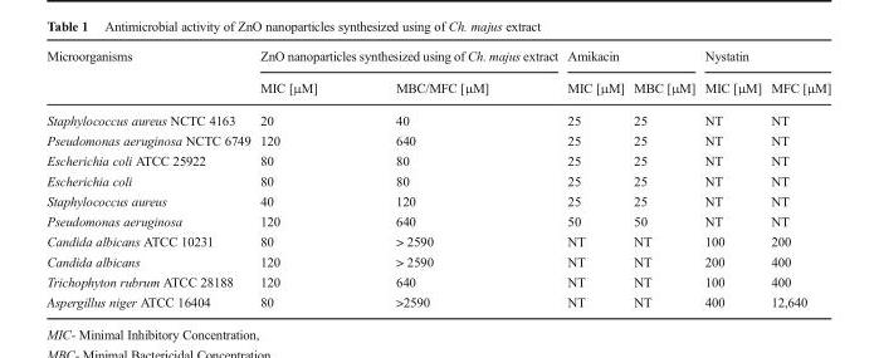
<table><thead><tr><td rowspan="2">Microorganisms</td><td colspan="2">ZnO nanoparticles synthesized using of Ch. majus extract</td><td colspan="2">Amikacin</td><td colspan="2">Nystatin</td></tr><tr><td>MIC [μM]</td><td>MBC/MFC [μM]</td><td>MIC [μM]</td><td>MBC [μM]</td><td>MIC [μM]</td><td>MFC [μM]</td></tr></thead><tbody><tr><td>Staphylococcus aureus NCTC 4163</td><td>20</td><td>40</td><td>25</td><td>25</td><td>NT</td><td>NT</td></tr><tr><td>Pseudomonas aeruginosa NCTC 6749</td><td>120</td><td>640</td><td>25</td><td>25</td><td>NT</td><td>NT</td></tr><tr><td>Escherichia coli ATCC 25922</td><td>80</td><td>80</td><td>25</td><td>25</td><td>NT</td><td>NT</td></tr><tr><td>Escherichia coli</td><td>80</td><td>80</td><td>25</td><td>25</td><td>NT</td><td>NT</td></tr><tr><td>Staphylococcus aureus</td><td>40</td><td>120</td><td>25</td><td>25</td><td>NT</td><td>NT</td></tr><tr><td>Pseudomonas aeruginosa</td><td>120</td><td>640</td><td>50</td><td>50</td><td>NT</td><td>NT</td></tr><tr><td>Candida albicans ATCC 10231</td><td>80</td><td>&gt; 2590</td><td>NT</td><td>NT</td><td>100</td><td>200</td></tr><tr><td>Candida albicans</td><td>120</td><td>&gt; 2590</td><td>NT</td><td>NT</td><td>200</td><td>400</td></tr><tr><td>Trichophyton rubrum ATCC 28188</td><td>120</td><td>640</td><td>NT</td><td>NT</td><td>100</td><td>400</td></tr><tr><td>Aspergillus niger ATCC 16404</td><td>80</td><td>&gt;2590</td><td>NT</td><td>NT</td><td>400</td><td>12,640</td></tr></tbody></table>